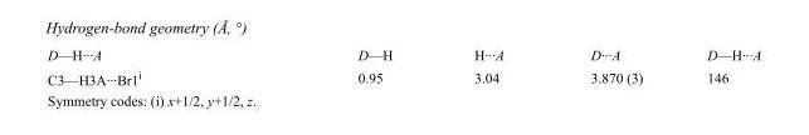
<table><tbody><tr><td>D—H···A</td><td>D—H</td><td>H···A</td><td>D···A</td><td>D—H···A</td></tr><tr><td>C3—H3A···Br1<sup>i</sup></td><td>0.95</td><td>3.04</td><td>3.870 (3)</td><td>146</td></tr></tbody></table>